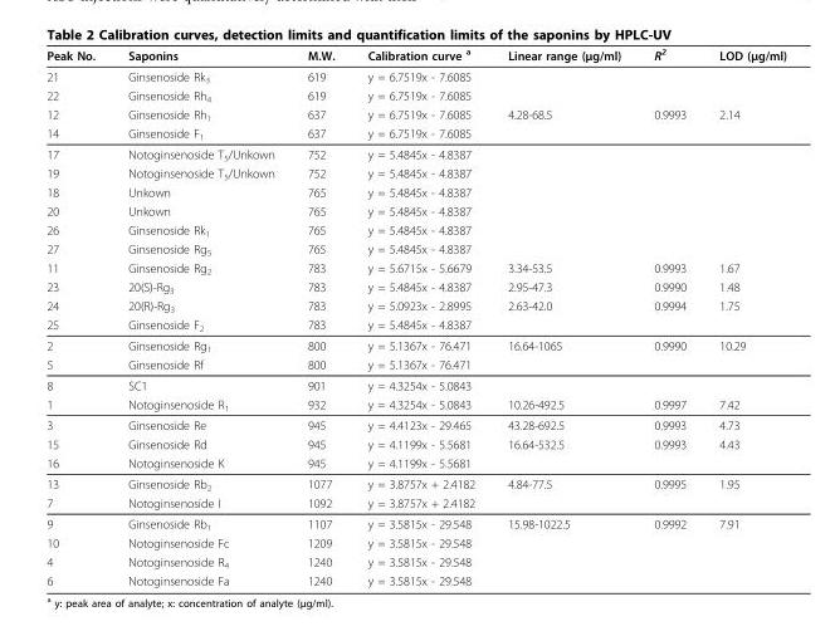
<table><thead><tr><td>Peak No.</td><td>Saponins</td><td>M.W.</td><td>Calibration curve a</td><td>Linear range (μg/ml)</td><td>R2</td><td>LOD (μg/ml)</td></tr></thead><tbody><tr><td>21</td><td>Ginsenoside Rk<sub>3</sub></td><td>619</td><td>y = 6.7519x - 7.6085</td><td></td><td></td><td></td></tr><tr><td>22</td><td>Ginsenoside Rh<sub>4</sub></td><td>619</td><td>y = 6.7519x - 7.6085</td><td></td><td></td><td></td></tr><tr><td>12</td><td>Ginsenoside Rh<sub>1</sub></td><td>637</td><td>y = 6.7519x - 7.6085</td><td>4.28-68.5</td><td>0.9993</td><td>2.14</td></tr><tr><td>14</td><td>Ginsenoside F<sub>1</sub></td><td>637</td><td>y = 6.7519x - 7.6085</td><td></td><td></td><td></td></tr><tr><td>17</td><td>Notoginsenoside T<sub>5</sub>/Unkown</td><td>752</td><td>y = 5.4845x - 4.8387</td><td></td><td></td><td></td></tr><tr><td>19</td><td>Notoginsenoside T<sub>5</sub>/Unkown</td><td>752</td><td>y = 5.4845x - 4.8387</td><td></td><td></td><td></td></tr><tr><td>18</td><td>Unkown</td><td>765</td><td>y = 5.4845x - 4.8387</td><td></td><td></td><td></td></tr><tr><td>20</td><td>Unkown</td><td>765</td><td>y = 5.4845x - 4.8387</td><td></td><td></td><td></td></tr><tr><td>26</td><td>Ginsenoside Rk<sub>1</sub></td><td>765</td><td>y = 5.4845x - 4.8387</td><td></td><td></td><td></td></tr><tr><td>27</td><td>Ginsenoside Rg<sub>5</sub></td><td>765</td><td>y = 5.4845x - 4.8387</td><td></td><td></td><td></td></tr><tr><td>11</td><td>Ginsenoside Rg<sub>2</sub></td><td>783</td><td>y = 5.6715x - 5.6679</td><td>3.34-53.5</td><td>0.9993</td><td>1.67</td></tr><tr><td>23</td><td>20(S)-Rg3</td><td>783</td><td>y = 5.4845x - 4.8387</td><td>2.95-47.3</td><td>0.9990</td><td>1.48</td></tr><tr><td>24</td><td>20(R)-Rg3</td><td>783</td><td>y = 5.0923x - 2.8995</td><td>2.63-42.0</td><td>0.9994</td><td>1.75</td></tr><tr><td>25</td><td>Ginsenoside F<sub>2</sub></td><td>783</td><td>y = 5.4845x - 4.8387</td><td></td><td></td><td></td></tr><tr><td>2</td><td>Ginsenoside Rg<sub>1</sub></td><td>800</td><td>y = 5.1367x - 76.471</td><td>16.64-1065</td><td>0.9990</td><td>10.29</td></tr><tr><td>5</td><td>Ginsenoside Rf</td><td>800</td><td>y = 5.1367x - 76.471</td><td></td><td></td><td></td></tr><tr><td>8</td><td>SC1</td><td>901</td><td>y = 4.3254x - 5.0843</td><td></td><td></td><td></td></tr><tr><td>1</td><td>Notoginsenoside R<sub>1</sub></td><td>932</td><td>y = 4.3254x - 5.0843</td><td>10.26-492.5</td><td>0.9997</td><td>7.42</td></tr><tr><td>3</td><td>Ginsenoside Re</td><td>945</td><td>y = 4.4123x - 29.465</td><td>43.28-692.5</td><td>0.9993</td><td>4.73</td></tr><tr><td>15</td><td>Ginsenoside Rd</td><td>945</td><td>y = 4.1199x - 5.5681</td><td>16.64-532.5</td><td>0.9993</td><td>4.43</td></tr><tr><td>16</td><td>Notoginsenoside K</td><td>945</td><td>y = 4.1199x - 5.5681</td><td></td><td></td><td></td></tr><tr><td>13</td><td>Ginsenoside Rb<sub>2</sub></td><td>1077</td><td>y = 3.8757x + 2.4182</td><td>4.84-77.5</td><td>0.9995</td><td>1.95</td></tr><tr><td>7</td><td>Notoginsenoside I</td><td>1092</td><td>y = 3.8757x + 2.4182</td><td></td><td></td><td></td></tr><tr><td>9</td><td>Ginsenoside Rb1</td><td>1107</td><td>y = 3.5815x - 29.548</td><td>15.98-1022.5</td><td>0.9992</td><td>7.91</td></tr><tr><td>10</td><td>Notoginsenoside Fc</td><td>1209</td><td>y = 3.5815x - 29.548</td><td></td><td></td><td></td></tr><tr><td>4</td><td>Notoginsenoside R<sub>4</sub></td><td>1240</td><td>y = 3.5815x - 29.548</td><td></td><td></td><td></td></tr><tr><td>6</td><td>Notoginsenoside Fa</td><td>1240</td><td>y = 3.5815x - 29.548</td><td></td><td></td><td></td></tr></tbody></table>